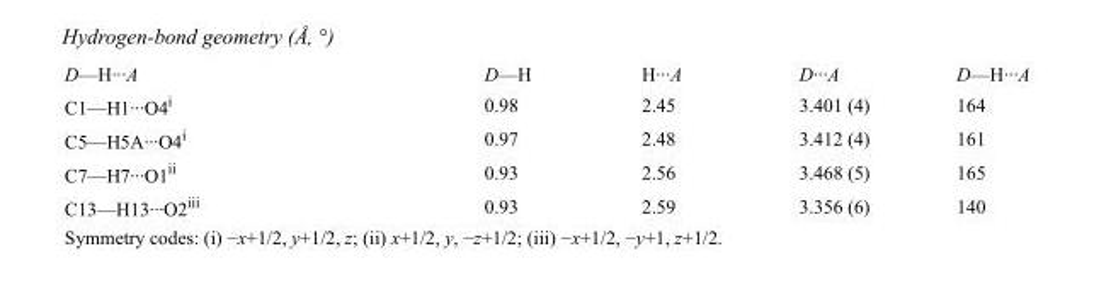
<table><tbody><tr><td>D—H···A</td><td>D—H</td><td>H···A</td><td>D···A</td><td>D—H···A</td></tr><tr><td>C1—H1···O4<sup>i</sup></td><td>0.98</td><td>2.45</td><td>3.401 (4)</td><td>164</td></tr><tr><td>C5—H5A···O4<sup>i</sup></td><td>0.97</td><td>2.48</td><td>3.412 (4)</td><td>161</td></tr><tr><td>C7—H7···O1<sup>ii</sup></td><td>0.93</td><td>2.56</td><td>3.468 (5)</td><td>165</td></tr><tr><td>C13—H13···O2<sup>iii</sup></td><td>0.93</td><td>2.59</td><td>3.356 (6)</td><td>140</td></tr></tbody></table>